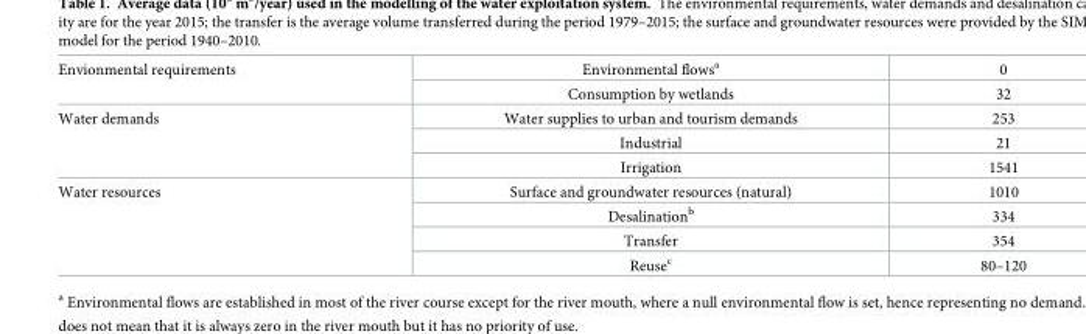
<table><tbody><tr><td rowspan="2">Envionmental requirements</td><td>Environmental flows<sup>a</sup></td><td>0</td></tr><tr><td>Consumption by wetlands</td><td>32</td></tr><tr><td rowspan="3">Water demands</td><td>Water supplies to urban and tourism demands</td><td>253</td></tr><tr><td>Industrial</td><td>21</td></tr><tr><td>Irrigation</td><td>1541</td></tr><tr><td rowspan="4">Water resources</td><td>Surface and groundwater resources (natural)</td><td>1010</td></tr><tr><td>Desalination<sup>b</sup></td><td>334</td></tr><tr><td>Transfer</td><td>354</td></tr><tr><td>Reuse<sup>c</sup></td><td>80–120</td></tr></tbody></table>